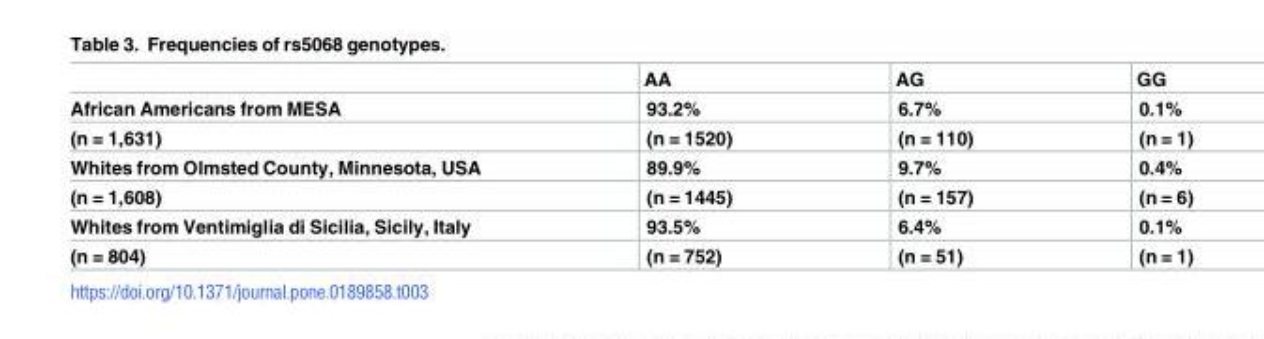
<table><thead><tr><td></td><td>AA</td><td>AG</td><td>GG</td></tr></thead><tbody><tr><td>African Americans from MESA</td><td>93.2%</td><td>6.7%</td><td>0.1%</td></tr><tr><td>(n = 1,631)</td><td>(n = 1520)</td><td>(n = 110)</td><td>(n = 1)</td></tr><tr><td>Whites from Olmsted County, Minnesota, USA</td><td>89.9%</td><td>9.7%</td><td>0.4%</td></tr><tr><td>(n = 1,608)</td><td>(n = 1445)</td><td>(n = 157)</td><td>(n = 6)</td></tr><tr><td>Whites from Ventimiglia di Sicilia, Sicily, Italy</td><td>93.5%</td><td>6.4%</td><td>0.1%</td></tr><tr><td>(n = 804)</td><td>(n = 752)</td><td>(n = 51)</td><td>(n = 1)</td></tr></tbody></table>